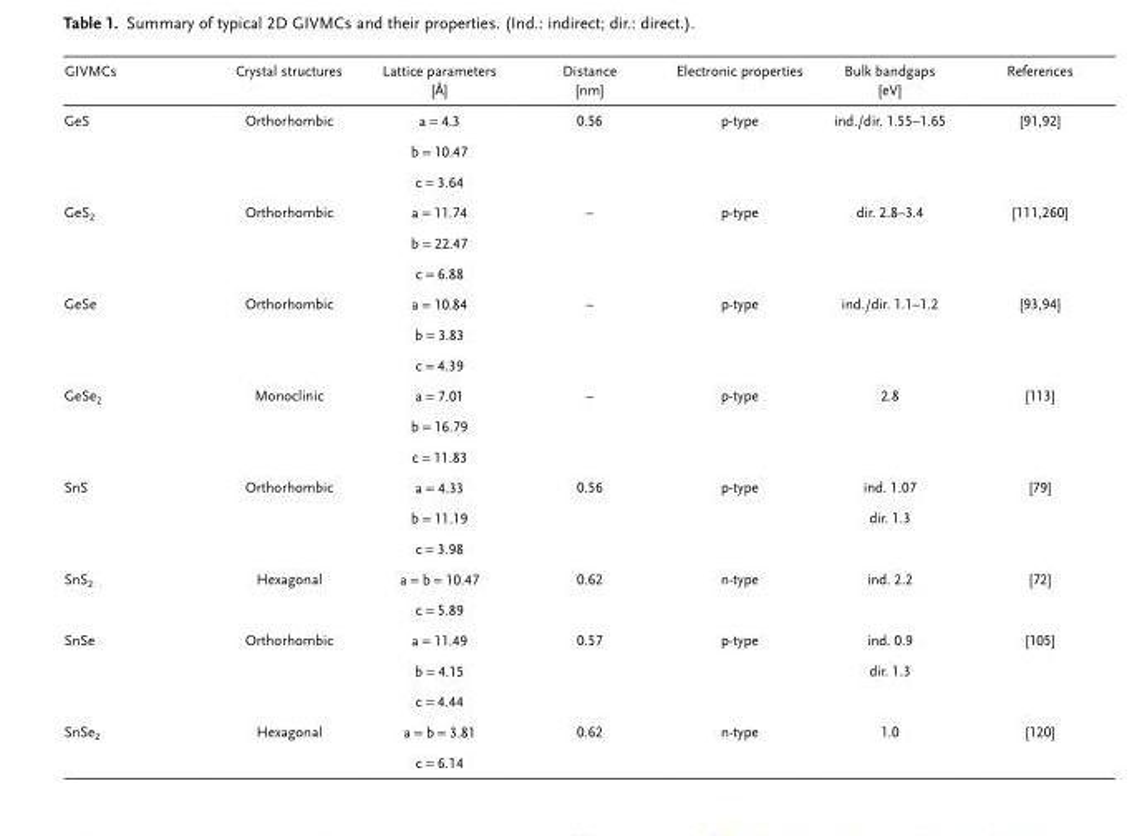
<table><thead><tr><td>GIVMCs</td><td>Crystal structures</td><td>Lattice parameters [Å]</td><td>Distance [nm]</td><td>Electronic properties</td><td>Bulk bandgaps [eV]</td><td>References</td></tr></thead><tbody><tr><td rowspan="3">GeS</td><td>Orthorhombic</td><td>a = 4.3</td><td>0.56</td><td>p-type</td><td>ind./dir. 1.55–1.65</td><td>[91,92]</td></tr><tr><td></td><td>b = 10.47</td><td></td><td></td><td></td><td></td></tr><tr><td></td><td>c = 3.64</td><td></td><td></td><td></td><td></td></tr><tr><td rowspan="3">GeS<sub>2</sub></td><td>Orthorhombic</td><td>a = 11.74</td><td>–</td><td>p-type</td><td>dir. 2.8–3.4</td><td>[111,260]</td></tr><tr><td></td><td>b = 22.47</td><td></td><td></td><td></td><td></td></tr><tr><td></td><td>c = 6.88</td><td></td><td></td><td></td><td></td></tr><tr><td rowspan="3">GeSe</td><td>Orthorhombic</td><td>a = 10.84</td><td>–</td><td>p-type</td><td>ind./dir. 1.1–1.2</td><td>[93,94]</td></tr><tr><td></td><td>b = 3.83</td><td></td><td></td><td></td><td></td></tr><tr><td></td><td>c = 4.39</td><td></td><td></td><td></td><td></td></tr><tr><td rowspan="3">GeSe<sub>2</sub></td><td>Monoclinic</td><td>a = 7.01</td><td>–</td><td>p-type</td><td>2.8</td><td>[113]</td></tr><tr><td></td><td>b = 16.79</td><td></td><td></td><td></td><td></td></tr><tr><td></td><td>c = 11.83</td><td></td><td></td><td></td><td></td></tr><tr><td rowspan="3">SnS</td><td>Orthorhombic</td><td>a = 4.33</td><td>0.56</td><td>p-type</td><td>ind. 1.07</td><td>[79]</td></tr><tr><td></td><td>b = 11.19</td><td></td><td></td><td>dir. 1.3</td><td></td></tr><tr><td></td><td>c = 3.98</td><td></td><td></td><td></td><td></td></tr><tr><td rowspan="2">SnS<sub>2</sub></td><td>Hexagonal</td><td>a = b = 10.47</td><td>0.62</td><td>n-type</td><td>ind. 2.2</td><td>[72]</td></tr><tr><td></td><td>c = 5.89</td><td></td><td></td><td></td><td></td></tr><tr><td rowspan="3">SnSe</td><td>Orthorhombic</td><td>a = 11.49</td><td>0.57</td><td>p-type</td><td>ind. 0.9</td><td>[105]</td></tr><tr><td></td><td>b = 4.15</td><td></td><td></td><td>dir. 1.3</td><td></td></tr><tr><td></td><td>c = 4.44</td><td></td><td></td><td></td><td></td></tr><tr><td rowspan="2">SnSe<sub>2</sub></td><td>Hexagonal</td><td>a = b = 3.81</td><td>0.62</td><td>n-type</td><td>1.0</td><td>[120]</td></tr><tr><td></td><td>c = 6.14</td><td></td><td></td><td></td><td></td></tr></tbody></table>